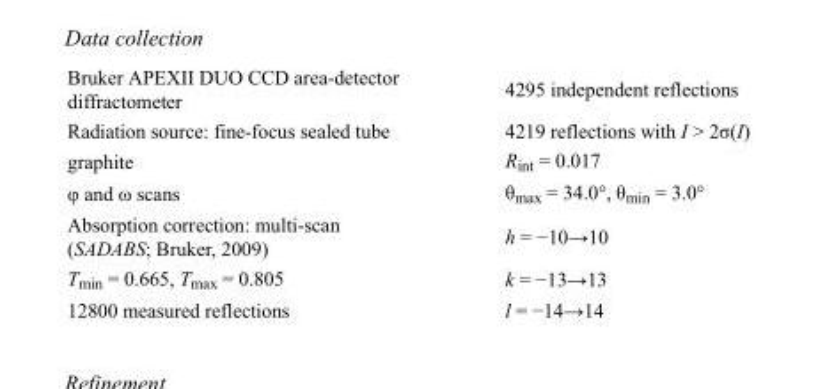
<table><tbody><tr><td>Bruker APEXII DUO CCD area-detector diffractometer</td><td>4295 independent reflections</td></tr><tr><td>Radiation source: fine-focus sealed tube</td><td>4219 reflections with I &gt; 2σ(I)</td></tr><tr><td>graphite</td><td>R<sub>int</sub> = 0.017</td></tr><tr><td>φ and ω scans</td><td>θ<sub>max</sub> = 34.0°, θ<sub>min</sub> = 3.0°</td></tr><tr><td>Absorption correction: multi-scan (SADABS; Bruker, 2009)</td><td>h = −10→10</td></tr><tr><td>T<sub>min</sub> = 0.665, T<sub>max</sub> = 0.805</td><td>k = −13→13</td></tr><tr><td>12800 measured reflections</td><td>l = −14→14</td></tr></tbody></table>